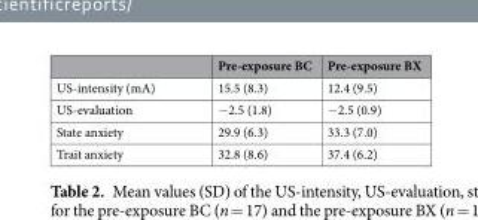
<table><thead><tr><td></td><td>Pre-exposure BC</td><td>Pre-exposure BX</td></tr></thead><tbody><tr><td>US-intensity (mA)</td><td>15.5 (8.3)</td><td>12.4 (9.5)</td></tr><tr><td>US-evaluation</td><td>−2.5 (1.8)</td><td>−2.5 (0.9)</td></tr><tr><td>State anxiety</td><td>29.9 (6.3)</td><td>33.3 (7.0)</td></tr><tr><td>Trait anxiety</td><td>32.8 (8.6)</td><td>37.4 (6.2)</td></tr></tbody></table>